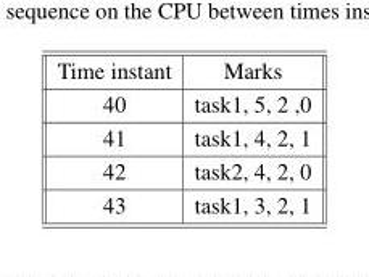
<table><thead><tr><td>Time instant</td><td>Marks</td></tr></thead><tbody><tr><td>40</td><td>task1, 5, 2 ,0</td></tr><tr><td>41</td><td>task1, 4, 2, 1</td></tr><tr><td>42</td><td>task2, 4, 2, 0</td></tr><tr><td>43</td><td>task1, 3, 2, 1</td></tr></tbody></table>